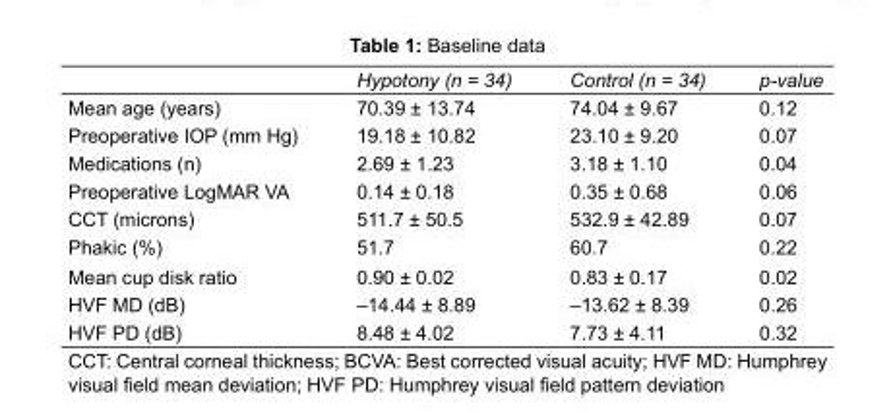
<table><thead><tr><td></td><td>Hypotony (n = 34)</td><td>Control (n = 34)</td><td>p-value</td></tr></thead><tbody><tr><td>Mean age (years)</td><td>70.39 ± 13.74</td><td>74.04 ± 9.67</td><td>0.12</td></tr><tr><td>Preoperative IOP (mm Hg)</td><td>19.18 ± 10.82</td><td>23.10 ± 9.20</td><td>0.07</td></tr><tr><td>Medications (n)</td><td>2.69 ± 1.23</td><td>3.18 ± 1.10</td><td>0.04</td></tr><tr><td>Preoperative LogMAR VA</td><td>0.14 ± 0.18</td><td>0.35 ± 0.68</td><td>0.06</td></tr><tr><td>CCT (microns)</td><td>511.7 ± 50.5</td><td>532.9 ± 42.89</td><td>0.07</td></tr><tr><td>Phakic (%)</td><td>51.7</td><td>60.7</td><td>0.22</td></tr><tr><td>Mean cup disk ratio</td><td>0.90 ± 0.02</td><td>0.83 ± 0.17</td><td>0.02</td></tr><tr><td>HVF MD (dB)</td><td>–14.44 ± 8.89</td><td>–13.62 ± 8.39</td><td>0.26</td></tr><tr><td>HVF PD (dB)</td><td>8.48 ± 4.02</td><td>7.73 ± 4.11</td><td>0.32</td></tr></tbody></table>